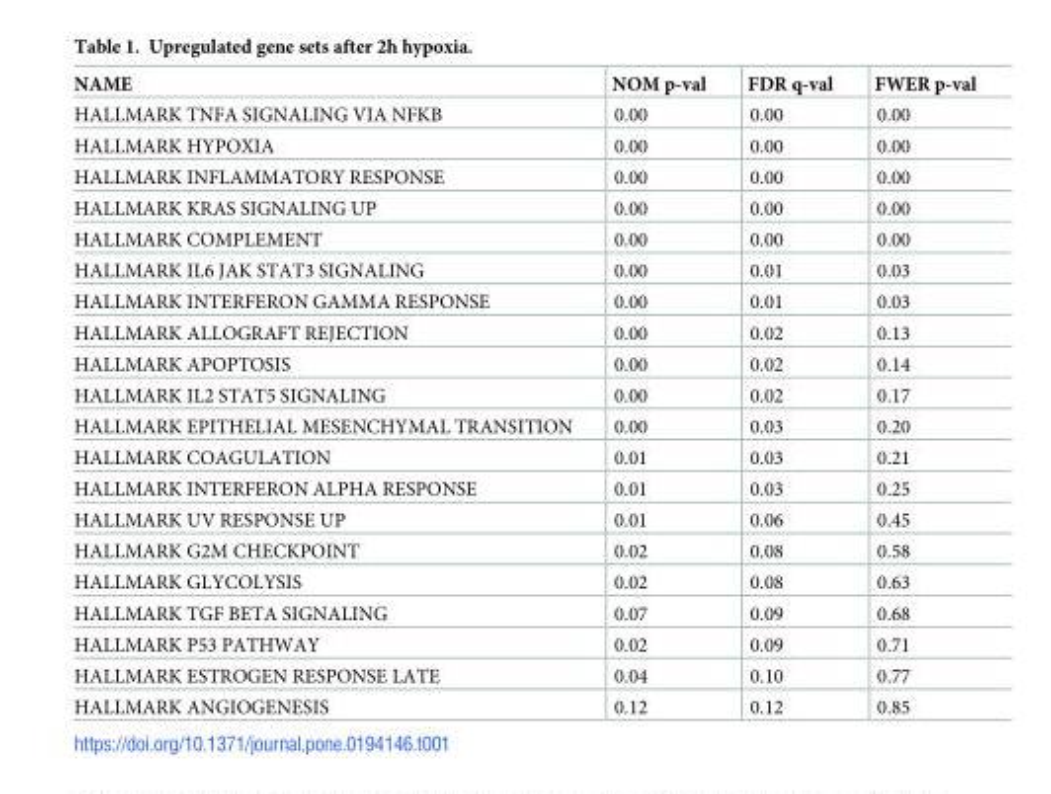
<table><thead><tr><td>NAME</td><td>NOM p-val</td><td>FDR q-val</td><td>FWER p-val</td></tr></thead><tbody><tr><td>HALLMARK TNFA SIGNALING VIA NFKB</td><td>0.00</td><td>0.00</td><td>0.00</td></tr><tr><td>HALLMARK HYPOXIA</td><td>0.00</td><td>0.00</td><td>0.00</td></tr><tr><td>HALLMARK INFLAMMATORY RESPONSE</td><td>0.00</td><td>0.00</td><td>0.00</td></tr><tr><td>HALLMARK KRAS SIGNALING UP</td><td>0.00</td><td>0.00</td><td>0.00</td></tr><tr><td>HALLMARK COMPLEMENT</td><td>0.00</td><td>0.00</td><td>0.00</td></tr><tr><td>HALLMARK IL6 JAK STAT3 SIGNALING</td><td>0.00</td><td>0.01</td><td>0.03</td></tr><tr><td>HALLMARK INTERFERON GAMMA RESPONSE</td><td>0.00</td><td>0.01</td><td>0.03</td></tr><tr><td>HALLMARK ALLOGRAFT REJECTION</td><td>0.00</td><td>0.02</td><td>0.13</td></tr><tr><td>HALLMARK APOPTOSIS</td><td>0.00</td><td>0.02</td><td>0.14</td></tr><tr><td>HALLMARK IL2 STAT5 SIGNALING</td><td>0.00</td><td>0.02</td><td>0.17</td></tr><tr><td>HALLMARK EPITHELIAL MESENCHYMAL TRANSITION</td><td>0.00</td><td>0.03</td><td>0.20</td></tr><tr><td>HALLMARK COAGULATION</td><td>0.01</td><td>0.03</td><td>0.21</td></tr><tr><td>HALLMARK INTERFERON ALPHA RESPONSE</td><td>0.01</td><td>0.03</td><td>0.25</td></tr><tr><td>HALLMARK UV RESPONSE UP</td><td>0.01</td><td>0.06</td><td>0.45</td></tr><tr><td>HALLMARK G2M CHECKPOINT</td><td>0.02</td><td>0.08</td><td>0.58</td></tr><tr><td>HALLMARK GLYCOLYSIS</td><td>0.02</td><td>0.08</td><td>0.63</td></tr><tr><td>HALLMARK TGF BETA SIGNALING</td><td>0.07</td><td>0.09</td><td>0.68</td></tr><tr><td>HALLMARK P53 PATHWAY</td><td>0.02</td><td>0.09</td><td>0.71</td></tr><tr><td>HALLMARK ESTROGEN RESPONSE LATE</td><td>0.04</td><td>0.10</td><td>0.77</td></tr><tr><td>HALLMARK ANGIOGENESIS</td><td>0.12</td><td>0.12</td><td>0.85</td></tr></tbody></table>